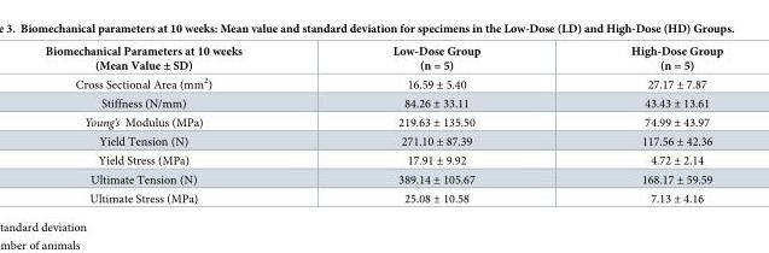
<table><thead><tr><td>Biomechanical Parameters at 10 weeks (Mean Value ± SD)</td><td>Low-Dose Group (n = 5)</td><td>High-Dose Group (n = 5)</td></tr></thead><tbody><tr><td>Cross Sectional Area (mm<sup>2</sup>)</td><td>16.59 ± 5.40</td><td>27.17 ± 7.87</td></tr><tr><td>Stiffness (N/mm)</td><td>84.26 ± 33.11</td><td>43.43 ± 13.61</td></tr><tr><td>Young’s Modulus (MPa)</td><td>219.63 ± 135.50</td><td>74.99 ± 43.97</td></tr><tr><td>Yield Tension (N)</td><td>271.10 ± 87.39</td><td>117.56 ± 42.36</td></tr><tr><td>Yield Stress (MPa)</td><td>17.91 ± 9.92</td><td>4.72 ± 2.14</td></tr><tr><td>Ultimate Tension (N)</td><td>389.14 ± 105.67</td><td>168.17 ± 59.59</td></tr><tr><td>Ultimate Stress (MPa)</td><td>25.08 ± 10.58</td><td>7.13 ± 4.16</td></tr></tbody></table>